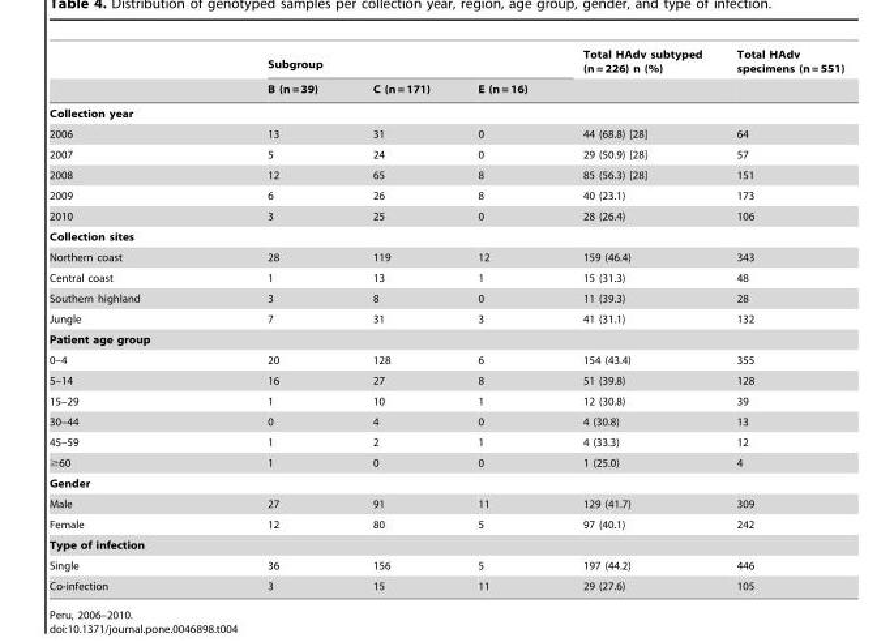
<table><thead><tr><td rowspan="2"></td><td colspan="3">Subgroup</td><td rowspan="2">Total HAdv subtyped (n = 226) n (%)</td><td rowspan="2">Total HAdv specimens (n = 551)</td></tr><tr><td>B (n = 39)</td><td>C (n = 171)</td><td>E (n = 16)</td></tr></thead><tbody><tr><td colspan="6">Collection year</td></tr><tr><td>2006</td><td>13</td><td>31</td><td>0</td><td>44 (68.8) [28]</td><td>64</td></tr><tr><td>2007</td><td>5</td><td>24</td><td>0</td><td>29 (50.9) [28]</td><td>57</td></tr><tr><td>2008</td><td>12</td><td>65</td><td>8</td><td>85 (56.3) [28]</td><td>151</td></tr><tr><td>2009</td><td>6</td><td>26</td><td>8</td><td>40 (23.1)</td><td>173</td></tr><tr><td>2010</td><td>3</td><td>25</td><td>0</td><td>28 (26.4)</td><td>106</td></tr><tr><td colspan="6">Collection sites</td></tr><tr><td>Northern coast</td><td>28</td><td>119</td><td>12</td><td>159 (46.4)</td><td>343</td></tr><tr><td>Central coast</td><td>1</td><td>13</td><td>1</td><td>15 (31.3)</td><td>48</td></tr><tr><td>Southern highland</td><td>3</td><td>8</td><td>0</td><td>11 (39.3)</td><td>28</td></tr><tr><td>Jungle</td><td>7</td><td>31</td><td>3</td><td>41 (31.1)</td><td>132</td></tr><tr><td colspan="6">Patient age group</td></tr><tr><td>0–4</td><td>20</td><td>128</td><td>6</td><td>154 (43.4)</td><td>355</td></tr><tr><td>5–14</td><td>16</td><td>27</td><td>8</td><td>51 (39.8)</td><td>128</td></tr><tr><td>15–29</td><td>1</td><td>10</td><td>1</td><td>12 (30.8)</td><td>39</td></tr><tr><td>30–44</td><td>0</td><td>4</td><td>0</td><td>4 (30.8)</td><td>13</td></tr><tr><td>45–59</td><td>1</td><td>2</td><td>1</td><td>4 (33.3)</td><td>12</td></tr><tr><td>≥60</td><td>1</td><td>0</td><td>0</td><td>1 (25.0)</td><td>4</td></tr><tr><td colspan="6">Gender</td></tr><tr><td>Male</td><td>27</td><td>91</td><td>11</td><td>129 (41.7)</td><td>309</td></tr><tr><td>Female</td><td>12</td><td>80</td><td>5</td><td>97 (40.1)</td><td>242</td></tr><tr><td colspan="6">Type of infection</td></tr><tr><td>Single</td><td>36</td><td>156</td><td>5</td><td>197 (44.2)</td><td>446</td></tr><tr><td>Co-infection</td><td>3</td><td>15</td><td>11</td><td>29 (27.6)</td><td>105</td></tr></tbody></table>